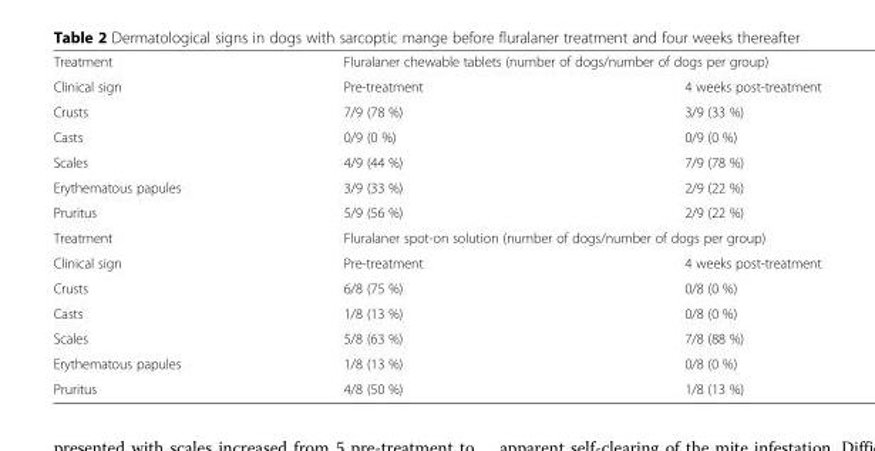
<table><tbody><tr><td>Treatment</td><td colspan="2">Fluralaner chewable tablets (number of dogs/number of dogs per group)</td></tr><tr><td>Clinical sign</td><td>Pre-treatment</td><td>4 weeks post-treatment</td></tr><tr><td>Crusts</td><td>7/9 (78 %)</td><td>3/9 (33 %)</td></tr><tr><td>Casts</td><td>0/9 (0 %)</td><td>0/9 (0 %)</td></tr><tr><td>Scales</td><td>4/9 (44 %)</td><td>7/9 (78 %)</td></tr><tr><td>Erythematous papules</td><td>3/9 (33 %)</td><td>2/9 (22 %)</td></tr><tr><td>Pruritus</td><td>5/9 (56 %)</td><td>2/9 (22 %)</td></tr><tr><td>Treatment</td><td colspan="2">Fluralaner spot-on solution (number of dogs/number of dogs per group)</td></tr><tr><td>Clinical sign</td><td>Pre-treatment</td><td>4 weeks post-treatment</td></tr><tr><td>Crusts</td><td>6/8 (75 %)</td><td>0/8 (0 %)</td></tr><tr><td>Casts</td><td>1/8 (13 %)</td><td>0/8 (0 %)</td></tr><tr><td>Scales</td><td>5/8 (63 %)</td><td>7/8 (88 %)</td></tr><tr><td>Erythematous papules</td><td>1/8 (13 %)</td><td>0/8 (0 %)</td></tr><tr><td>Pruritus</td><td>4/8 (50 %)</td><td>1/8 (13 %)</td></tr></tbody></table>